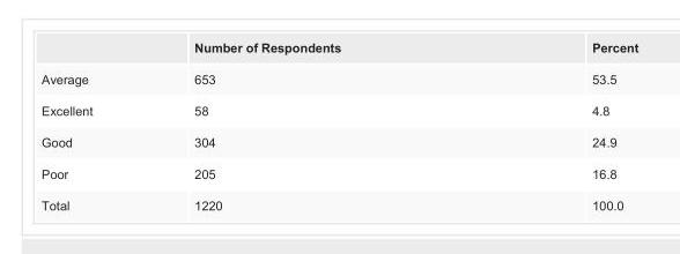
<table><thead><tr><td></td><td>Number of Respondents</td><td>Percent</td></tr></thead><tbody><tr><td>Average</td><td>653</td><td>53.5</td></tr><tr><td>Excellent</td><td>58</td><td>4.8</td></tr><tr><td>Good</td><td>304</td><td>24.9</td></tr><tr><td>Poor</td><td>205</td><td>16.8</td></tr><tr><td>Total</td><td>1220</td><td>100.0</td></tr></tbody></table>